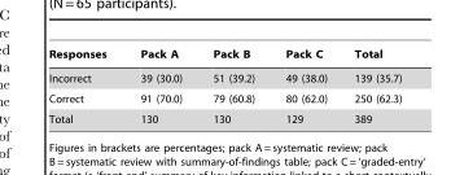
<table><thead><tr><td>Responses</td><td>Pack A</td><td>Pack B</td><td>Pack C</td><td>Total</td></tr></thead><tbody><tr><td>Incorrect</td><td>39 (30.0)</td><td>51 (39.2)</td><td>49 (38.0)</td><td>139 (35.7)</td></tr><tr><td>Correct</td><td>91 (70.0)</td><td>79 (60.8)</td><td>80 (62.0)</td><td>250 (62.3)</td></tr><tr><td>Total</td><td>130</td><td>130</td><td>129</td><td>389</td></tr></tbody></table>